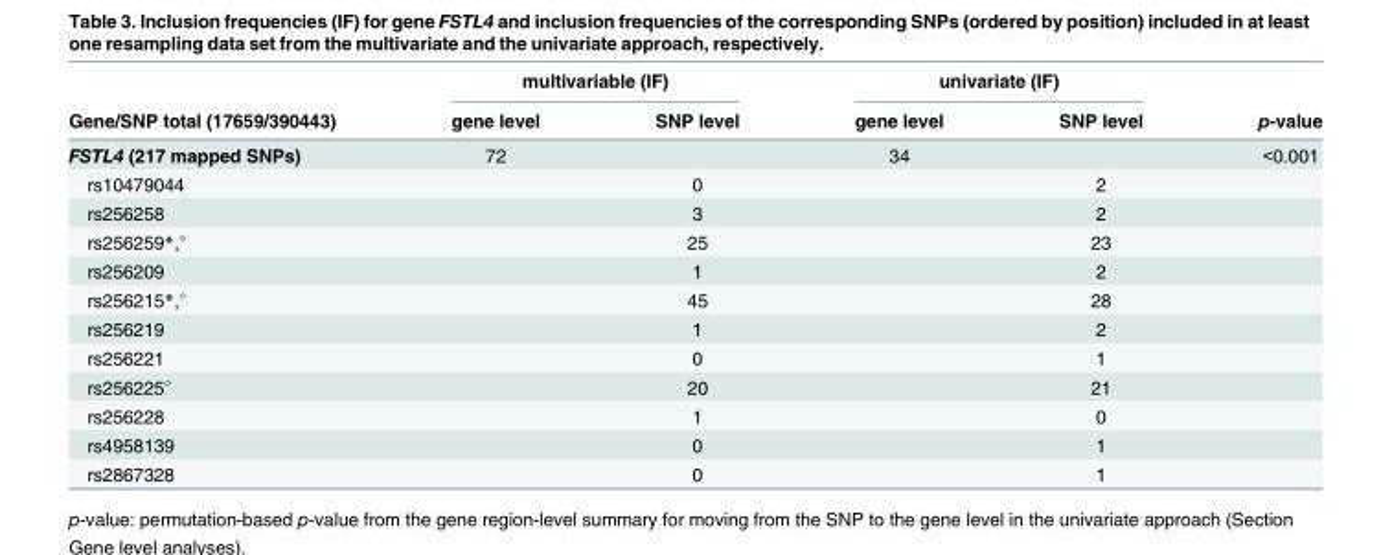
<table><thead><tr><td rowspan="2">Gene/SNP total (17659/390443)</td><td colspan="2">multivariable (IF)</td><td colspan="2">univariate (IF)</td><td rowspan="2">p-value</td></tr><tr><td>gene level</td><td>SNP level</td><td>gene level</td><td>SNP level</td></tr></thead><tbody><tr><td>FSTL4 (217 mapped SNPs)</td><td>72</td><td></td><td>34</td><td></td><td>&lt;0.001</td></tr><tr><td>rs10479044</td><td></td><td>0</td><td></td><td>2</td><td></td></tr><tr><td>rs256258</td><td></td><td>3</td><td></td><td>2</td><td></td></tr><tr><td>rs256259*,<sup>⋄</sup></td><td></td><td>25</td><td></td><td>23</td><td></td></tr><tr><td>rs256209</td><td></td><td>1</td><td></td><td>2</td><td></td></tr><tr><td>rs256215*,<sup>⋄</sup></td><td></td><td>45</td><td></td><td>28</td><td></td></tr><tr><td>rs256219</td><td></td><td>1</td><td></td><td>2</td><td></td></tr><tr><td>rs256221</td><td></td><td>0</td><td></td><td>1</td><td></td></tr><tr><td>rs256225<sup>⋄</sup></td><td></td><td>20</td><td></td><td>21</td><td></td></tr><tr><td>rs256228</td><td></td><td>1</td><td></td><td>0</td><td></td></tr><tr><td>rs4958139</td><td></td><td>0</td><td></td><td>1</td><td></td></tr><tr><td>rs2867328</td><td></td><td>0</td><td></td><td>1</td><td></td></tr></tbody></table>